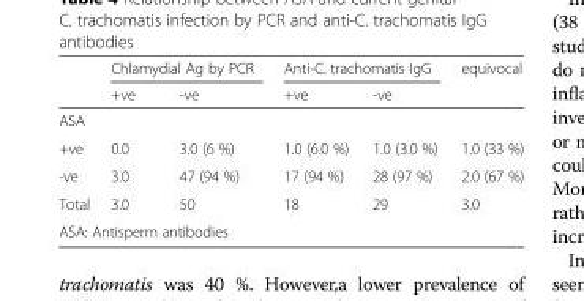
<table><thead><tr><td rowspan="2"></td><td colspan="2">Chlamydial Ag by PCR</td><td colspan="2">Anti-C. trachomatis IgG</td><td rowspan="2">equivocal</td></tr><tr><td>+ve</td><td>-ve</td><td>+ve</td><td>-ve</td></tr></thead><tbody><tr><td colspan="6">ASA</td></tr><tr><td>+ve</td><td>0.0</td><td>3.0 (6 %)</td><td>1.0 (6.0 %)</td><td>1.0 (3.0 %)</td><td>1.0 (33 %)</td></tr><tr><td>-ve</td><td>3.0</td><td>47 (94 %)</td><td>17 (94 %)</td><td>28 (97 %)</td><td>2.0 (67 %)</td></tr><tr><td>Total</td><td>3.0</td><td>50</td><td>18</td><td>29</td><td>3.0</td></tr><tr><td colspan="6">ASA: Antisperm antibodies</td></tr></tbody></table>